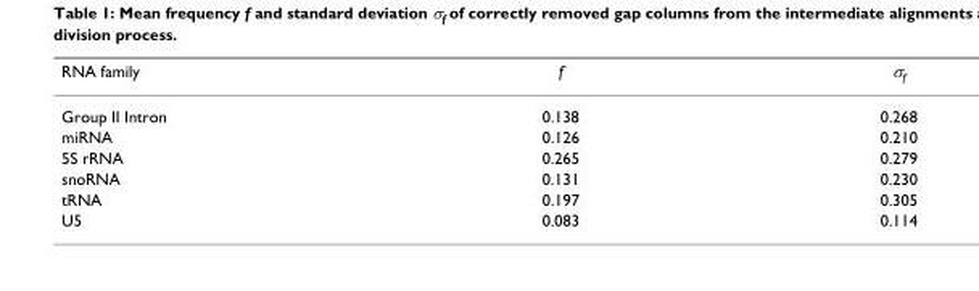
<table><thead><tr><td>RNA family</td><td>f</td><td>σ<sub>f</sub></td></tr></thead><tbody><tr><td>Group II Intron</td><td>0.138</td><td>0.268</td></tr><tr><td>miRNA</td><td>0.126</td><td>0.210</td></tr><tr><td>5S rRNA</td><td>0.265</td><td>0.279</td></tr><tr><td>snoRNA</td><td>0.131</td><td>0.230</td></tr><tr><td>tRNA</td><td>0.197</td><td>0.305</td></tr><tr><td>U5</td><td>0.083</td><td>0.114</td></tr></tbody></table>